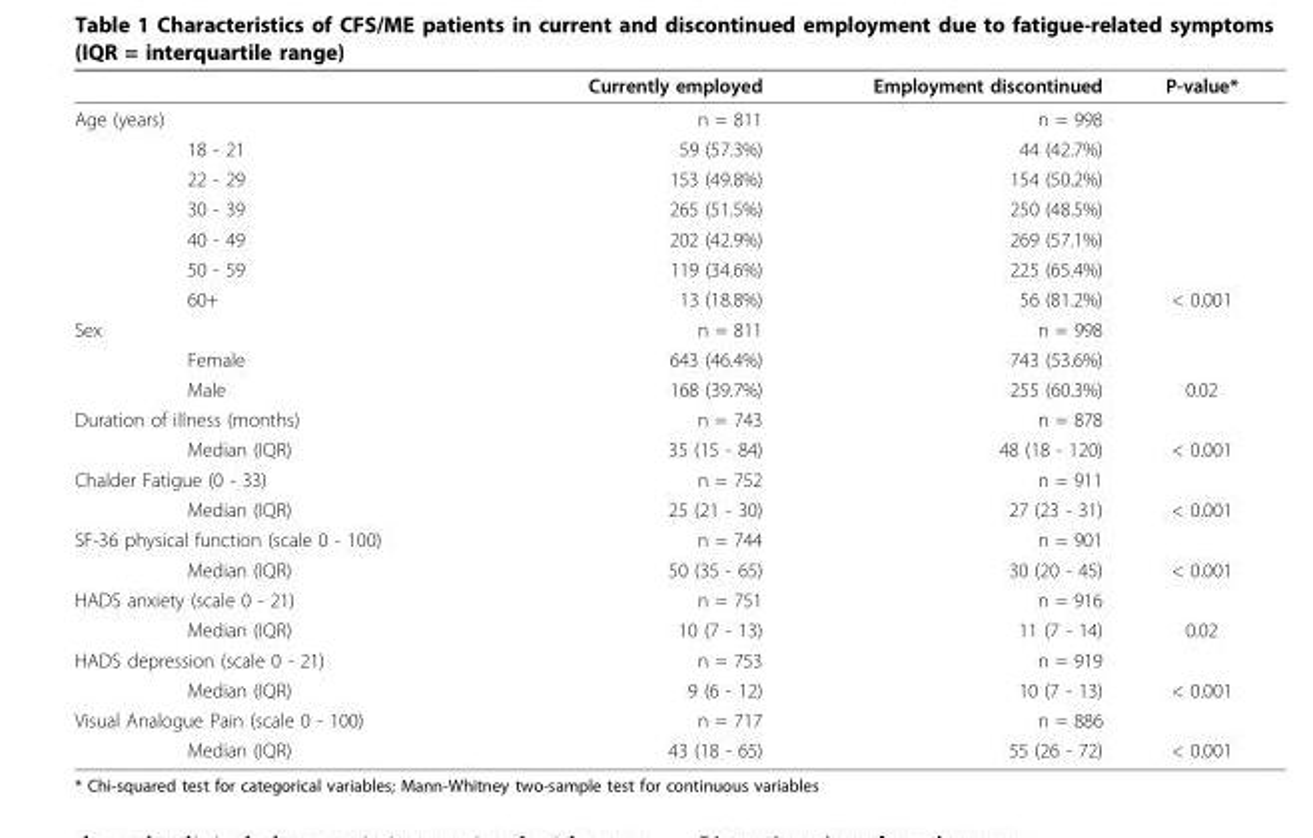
<table><thead><tr><td></td><td>Currently employed</td><td>Employment discontinued</td><td>P-value*</td></tr></thead><tbody><tr><td>Age (years)</td><td>n = 811</td><td>n = 998</td><td></td></tr><tr><td>18 - 21</td><td>59 (57.3%)</td><td>44 (42.7%)</td><td></td></tr><tr><td>22 - 29</td><td>153 (49.8%)</td><td>154 (50.2%)</td><td></td></tr><tr><td>30 - 39</td><td>265 (51.5%)</td><td>250 (48.5%)</td><td></td></tr><tr><td>40 - 49</td><td>202 (42.9%)</td><td>269 (57.1%)</td><td></td></tr><tr><td>50 - 59</td><td>119 (34.6%)</td><td>225 (65.4%)</td><td></td></tr><tr><td>60+</td><td>13 (18.8%)</td><td>56 (81.2%)</td><td>&lt; 0.001</td></tr><tr><td>Sex</td><td>n = 811</td><td>n = 998</td><td></td></tr><tr><td>Female</td><td>643 (46.4%)</td><td>743 (53.6%)</td><td></td></tr><tr><td>Male</td><td>168 (39.7%)</td><td>255 (60.3%)</td><td>0.02</td></tr><tr><td>Duration of illness (months)</td><td>n = 743</td><td>n = 878</td><td></td></tr><tr><td>Median (IQR)</td><td>35 (15 - 84)</td><td>48 (18 - 120)</td><td>&lt; 0.001</td></tr><tr><td>Chalder Fatigue (0 - 33)</td><td>n = 752</td><td>n = 911</td><td></td></tr><tr><td>Median (IQR)</td><td>25 (21 - 30)</td><td>27 (23 - 31)</td><td>&lt; 0.001</td></tr><tr><td>SF-36 physical function (scale 0 - 100)</td><td>n = 744</td><td>n = 901</td><td></td></tr><tr><td>Median (IQR)</td><td>50 (35 - 65)</td><td>30 (20 - 45)</td><td>&lt; 0.001</td></tr><tr><td>HADS anxiety (scale 0 - 21)</td><td>n = 751</td><td>n = 916</td><td></td></tr><tr><td>Median (IQR)</td><td>10 (7 - 13)</td><td>11 (7 - 14)</td><td>0.02</td></tr><tr><td>HADS depression (scale 0 - 21)</td><td>n = 753</td><td>n = 919</td><td></td></tr><tr><td>Median (IQR)</td><td>9 (6 - 12)</td><td>10 (7 - 13)</td><td>&lt; 0.001</td></tr><tr><td>Visual Analogue Pain (scale 0 - 100)</td><td>n = 717</td><td>n = 886</td><td></td></tr><tr><td>Median (IQR)</td><td>43 (18 - 65)</td><td>55 (26 - 72)</td><td>&lt; 0.001</td></tr></tbody></table>